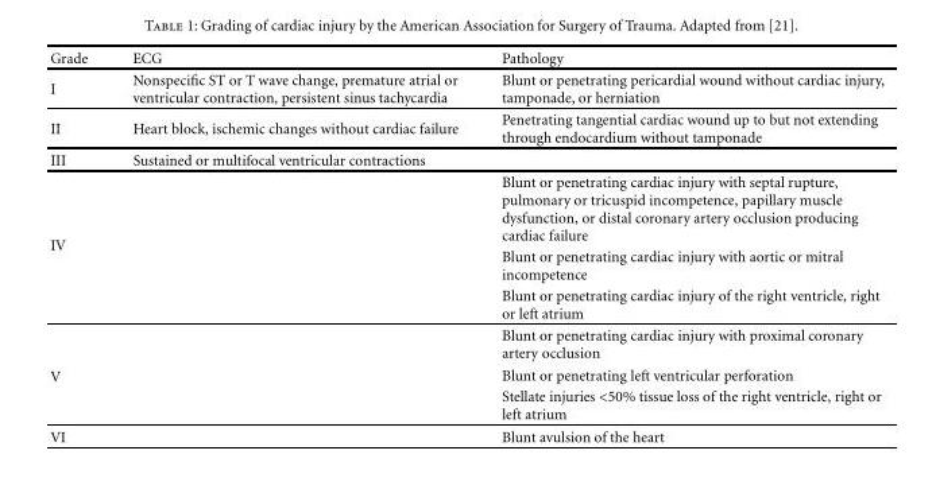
<table><thead><tr><td>Grade</td><td>ECG</td><td>Pathology</td></tr></thead><tbody><tr><td>I</td><td>Nonspecific ST or T wave change, premature atrial or ventricular contraction, persistent sinus tachycardia</td><td>Blunt or penetrating pericardial wound without cardiac injury, tamponade, or herniation</td></tr><tr><td>II</td><td>Heart block, ischemic changes without cardiac failure</td><td>Penetrating tangential cardiac wound up to but not extending through endocardium without tamponade</td></tr><tr><td>III</td><td>Sustained or multifocal ventricular contractions</td><td></td></tr><tr><td rowspan="3">IV</td><td></td><td>Blunt or penetrating cardiac injury with septal rupture, pulmonary or tricuspid incompetence, papillary muscle dysfunction, or distal coronary artery occlusion producing cardiac failure</td></tr><tr><td></td><td>Blunt or penetrating cardiac injury with aortic or mitral incompetence</td></tr><tr><td></td><td>Blunt or penetrating cardiac injury of the right ventricle, right or left atrium</td></tr><tr><td rowspan="3">V</td><td></td><td>Blunt or penetrating cardiac injury with proximal coronary artery occlusion</td></tr><tr><td></td><td>Blunt or penetrating left ventricular perforation</td></tr><tr><td></td><td>Stellate injuries &lt;50% tissue loss of the right ventricle, right or left atrium</td></tr><tr><td>VI</td><td></td><td>Blunt avulsion of the heart</td></tr></tbody></table>